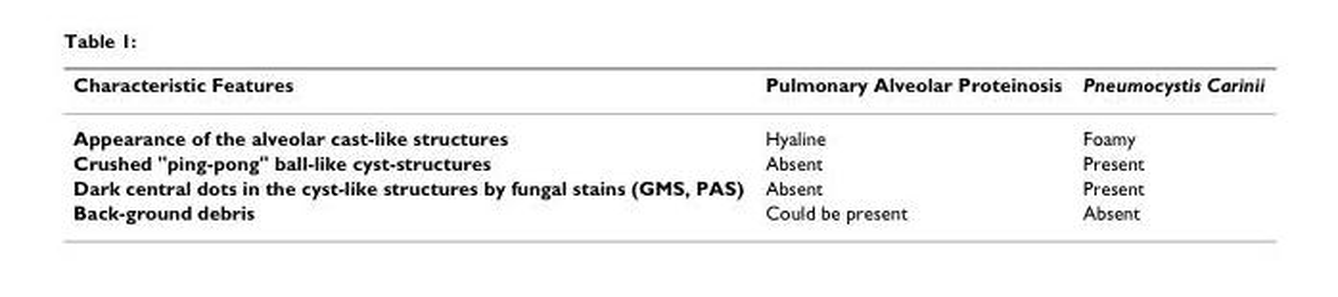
<table><thead><tr><td>Characteristic Features</td><td>Pulmonary Alveolar Proteinosis</td><td>Pneumocystis Carinii</td></tr></thead><tbody><tr><td>Appearance of the alveolar cast-like structures</td><td>Hyaline</td><td>Foamy</td></tr><tr><td>Crushed &quot;ping-pong&quot; ball-like cyst-structures</td><td>Absent</td><td>Present</td></tr><tr><td>Dark central dots in the cyst-like structures by fungal stains (GMS, PAS)</td><td>Absent</td><td>Present</td></tr><tr><td>Back-ground debris</td><td>Could be present</td><td>Absent</td></tr></tbody></table>